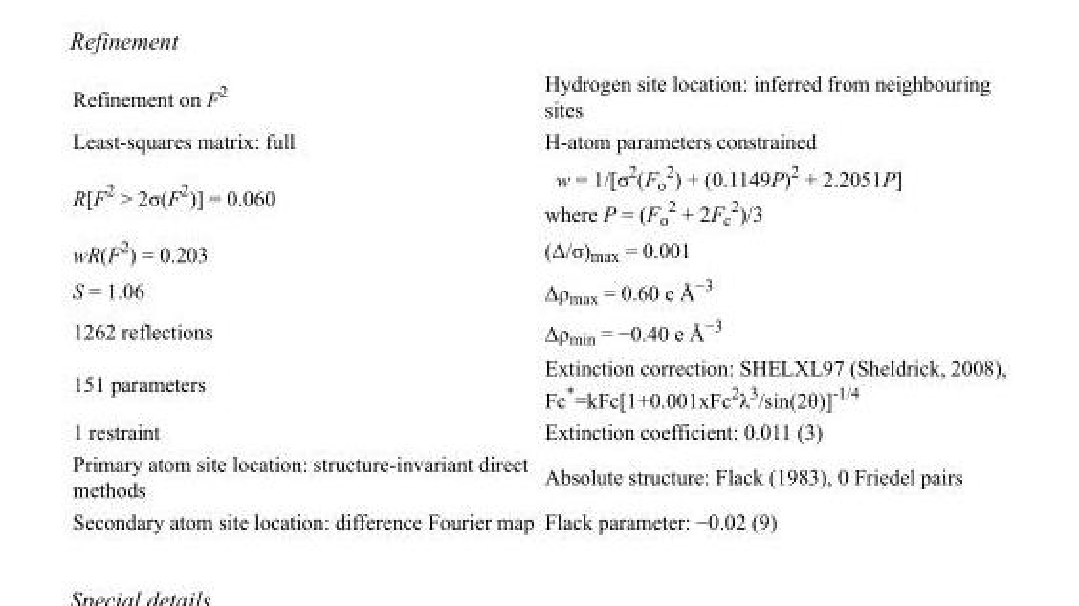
<table><tbody><tr><td>Refinement on F<sup>2</sup></td><td>Hydrogen site location: inferred from neighbouring sites</td></tr><tr><td>Least-squares matrix: full</td><td>H-atom parameters constrained</td></tr><tr><td>R[F<sup>2</sup> &gt; 2σ(F<sup>2</sup>)] = 0.060</td><td>w = 1/[σ<sup>2</sup>(F<sub>o</sub> <sup>2</sup>) + (0.1149P)<sup>2</sup> + 2.2051P] where P = (F<sub>o</sub> <sup>2</sup> + 2F<sub>c</sub> <sup>2</sup>)/3</td></tr><tr><td>wR(F<sup>2</sup>) = 0.203</td><td>(Δ/σ)<sub>max</sub> = 0.001</td></tr><tr><td>S = 1.06</td><td>Δρ<sub>max</sub> = 0.60 e Å<sup>−3</sup></td></tr><tr><td>1262 reflections</td><td>Δρ<sub>min</sub> = −0.40 e Å<sup>−3</sup></td></tr><tr><td>151 parameters</td><td>Extinction correction: SHELXL97 (Sheldrick, 2008), Fc*=kFc[1+0.001xFc<sup>2</sup>λ<sup>3</sup>/sin(2θ)]<sup>-1/4</sup></td></tr><tr><td>1 restraint</td><td>Extinction coefficient: 0.011 (3)</td></tr><tr><td>Primary atom site location: structure-invariant direct methods</td><td>Absolute structure: Flack (1983), 0 Friedel pairs</td></tr><tr><td>Secondary atom site location: difference Fourier map</td><td>Flack parameter: −0.02 (9)</td></tr></tbody></table>